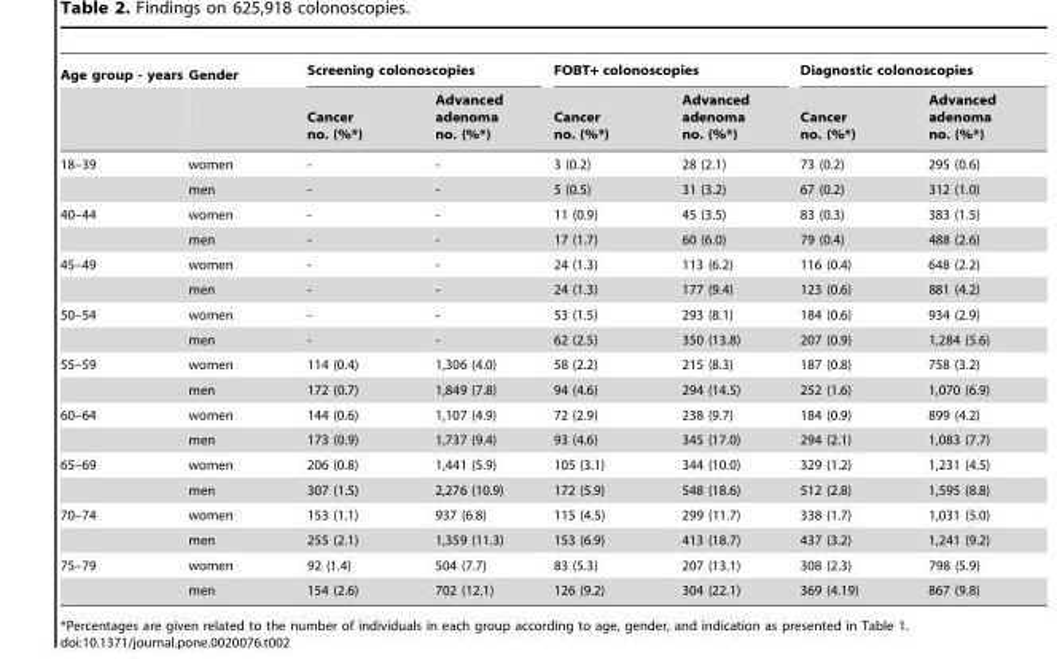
<table><thead><tr><td rowspan="2">Age group - years</td><td rowspan="2">Gender</td><td colspan="2">Screening colonoscopies</td><td colspan="2">FOBT+ colonoscopies</td><td colspan="2">Diagnostic colonoscopies</td></tr><tr><td>Cancer no. (%*)</td><td>Advanced adenoma no. (%*)</td><td>Cancer no. (%*)</td><td>Advanced adenoma no. (%*)</td><td>Cancer no. (%*)</td><td>Advanced adenoma no. (%*)</td></tr></thead><tbody><tr><td rowspan="2">18–39</td><td>women</td><td>-</td><td>-</td><td>3 (0.2)</td><td>28 (2.1)</td><td>73 (0.2)</td><td>295 (0.6)</td></tr><tr><td>men</td><td>-</td><td>-</td><td>5 (0.5)</td><td>31 (3.2)</td><td>67 (0.2)</td><td>312 (1.0)</td></tr><tr><td rowspan="2">40–44</td><td>women</td><td>-</td><td>-</td><td>11 (0.9)</td><td>45 (3.5)</td><td>83 (0.3)</td><td>383 (1.5)</td></tr><tr><td>men</td><td>-</td><td>-</td><td>17 (1.7)</td><td>60 (6.0)</td><td>79 (0.4)</td><td>488 (2.6)</td></tr><tr><td rowspan="2">45–49</td><td>women</td><td>-</td><td>-</td><td>24 (1.3)</td><td>113 (6.2)</td><td>116 (0.4)</td><td>648 (2.2)</td></tr><tr><td>men</td><td>-</td><td>-</td><td>24 (1.3)</td><td>177 (9.4)</td><td>123 (0.6)</td><td>881 (4.2)</td></tr><tr><td rowspan="2">50–54</td><td>women</td><td>-</td><td>-</td><td>53 (1.5)</td><td>293 (8.1)</td><td>184 (0.6)</td><td>934 (2.9)</td></tr><tr><td>men</td><td>-</td><td>-</td><td>62 (2.5)</td><td>350 (13.8)</td><td>207 (0.9)</td><td>1,284 (5.6)</td></tr><tr><td rowspan="2">55–59</td><td>women</td><td>114 (0.4)</td><td>1,306 (4.0)</td><td>58 (2.2)</td><td>215 (8.3)</td><td>187 (0.8)</td><td>758 (3.2)</td></tr><tr><td>men</td><td>172 (0.7)</td><td>1,849 (7.8)</td><td>94 (4.6)</td><td>294 (14.5)</td><td>252 (1.6)</td><td>1,070 (6.9)</td></tr><tr><td rowspan="2">60–64</td><td>women</td><td>144 (0.6)</td><td>1,107 (4.9)</td><td>72 (2.9)</td><td>238 (9.7)</td><td>184 (0.9)</td><td>899 (4.2)</td></tr><tr><td>men</td><td>173 (0.9)</td><td>1,737 (9.4)</td><td>93 (4.6)</td><td>345 (17.0)</td><td>294 (2.1)</td><td>1,083 (7.7)</td></tr><tr><td rowspan="2">65–69</td><td>women</td><td>206 (0.8)</td><td>1,441 (5.9)</td><td>105 (3.1)</td><td>344 (10.0)</td><td>329 (1.2)</td><td>1,231 (4.5)</td></tr><tr><td>men</td><td>307 (1.5)</td><td>2,276 (10.9)</td><td>172 (5.9)</td><td>548 (18.6)</td><td>512 (2.8)</td><td>1,595 (8.8)</td></tr><tr><td rowspan="2">70–74</td><td>women</td><td>153 (1.1)</td><td>937 (6.8)</td><td>115 (4.5)</td><td>299 (11.7)</td><td>338 (1.7)</td><td>1,031 (5.0)</td></tr><tr><td>men</td><td>255 (2.1)</td><td>1,359 (11.3)</td><td>153 (6.9)</td><td>413 (18.7)</td><td>437 (3.2)</td><td>1,241 (9.2)</td></tr><tr><td rowspan="2">75–79</td><td>women</td><td>92 (1.4)</td><td>504 (7.7)</td><td>83 (5.3)</td><td>207 (13.1)</td><td>308 (2.3)</td><td>798 (5.9)</td></tr><tr><td>men</td><td>154 (2.6)</td><td>702 (12.1)</td><td>126 (9.2)</td><td>304 (22.1)</td><td>369 (4.19)</td><td>867 (9.8)</td></tr></tbody></table>